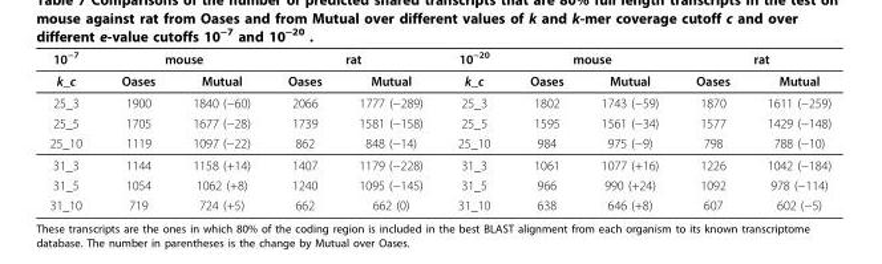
<table><thead><tr><td rowspan="2">10−7 k_c</td><td colspan="2">mouse</td><td colspan="2">rat</td><td rowspan="2">10−20 k_c</td><td colspan="2">mouse</td><td colspan="2">rat</td></tr><tr><td>Oases</td><td>Mutual</td><td>Oases</td><td>Mutual</td><td>Oases</td><td>Mutual</td><td>Oases</td><td>Mutual</td></tr></thead><tbody><tr><td>25_3</td><td>1900</td><td>1840 (−60)</td><td>2066</td><td>1777 (−289)</td><td>25_3</td><td>1802</td><td>1743 (−59)</td><td>1870</td><td>1611 (−259)</td></tr><tr><td>25_5</td><td>1705</td><td>1677 (−28)</td><td>1739</td><td>1581 (−158)</td><td>25_5</td><td>1595</td><td>1561 (−34)</td><td>1577</td><td>1429 (−148)</td></tr><tr><td>25_10</td><td>1119</td><td>1097 (−22)</td><td>862</td><td>848 (−14)</td><td>25_10</td><td>984</td><td>975 (−9)</td><td>798</td><td>788 (−10)</td></tr><tr><td>31_3</td><td>1144</td><td>1158 (+14)</td><td>1407</td><td>1179 (−228)</td><td>31_3</td><td>1061</td><td>1077 (+16)</td><td>1226</td><td>1042 (−184)</td></tr><tr><td>31_5</td><td>1054</td><td>1062 (+8)</td><td>1240</td><td>1095 (−145)</td><td>31_5</td><td>966</td><td>990 (+24)</td><td>1092</td><td>978 (−114)</td></tr><tr><td>31_10</td><td>719</td><td>724 (+5)</td><td>662</td><td>662 (0)</td><td>31_10</td><td>638</td><td>646 (+8)</td><td>607</td><td>602 (−5)</td></tr></tbody></table>